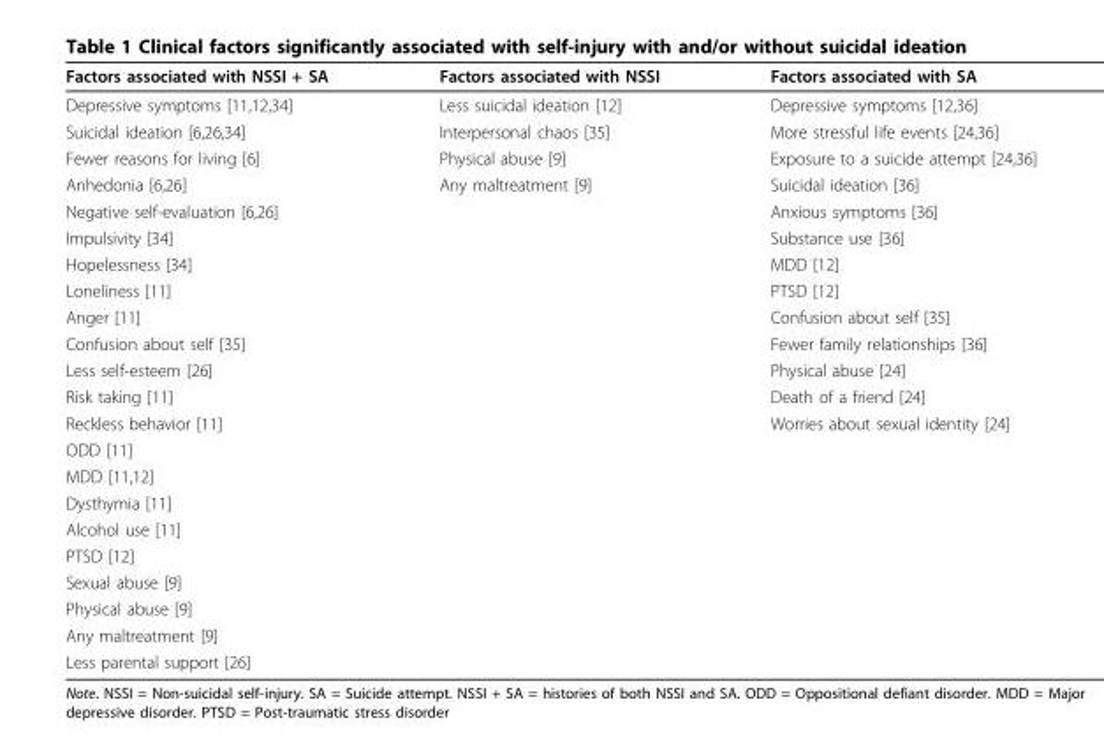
<table><thead><tr><td>Factors associated with NSSI + SA</td><td>Factors associated with NSSI</td><td>Factors associated with SA</td></tr></thead><tbody><tr><td>Depressive symptoms [11,12,34]</td><td>Less suicidal ideation [12]</td><td>Depressive symptoms [12,36]</td></tr><tr><td>Suicidal ideation [6,26,34]</td><td>Interpersonal chaos [35]</td><td>More stressful life events [24,36]</td></tr><tr><td>Fewer reasons for living [6]</td><td>Physical abuse [9]</td><td>Exposure to a suicide attempt [24,36]</td></tr><tr><td>Anhedonia [6,26]</td><td>Any maltreatment [9]</td><td>Suicidal ideation [36]</td></tr><tr><td>Negative self-evaluation [6,26]</td><td></td><td>Anxious symptoms [36]</td></tr><tr><td>Impulsivity [34]</td><td></td><td>Substance use [36]</td></tr><tr><td>Hopelessness [34]</td><td></td><td>MDD [12]</td></tr><tr><td>Loneliness [11]</td><td></td><td>PTSD [12]</td></tr><tr><td>Anger [11]</td><td></td><td>Confusion about self [35]</td></tr><tr><td>Confusion about self [35]</td><td></td><td>Fewer family relationships [36]</td></tr><tr><td>Less self-esteem [26]</td><td></td><td>Physical abuse [24]</td></tr><tr><td>Risk taking [11]</td><td></td><td>Death of a friend [24]</td></tr><tr><td>Reckless behavior [11]</td><td></td><td>Worries about sexual identity [24]</td></tr><tr><td colspan="3">ODD [11]</td></tr><tr><td colspan="3">MDD [11,12]</td></tr><tr><td colspan="3">Dysthymia [11]</td></tr><tr><td colspan="3">Alcohol use [11]</td></tr><tr><td colspan="3">PTSD [12]</td></tr><tr><td colspan="3">Sexual abuse [9]</td></tr><tr><td colspan="3">Physical abuse [9]</td></tr><tr><td colspan="3">Any maltreatment [9]</td></tr><tr><td>Less parental support [26]</td><td></td><td></td></tr></tbody></table>